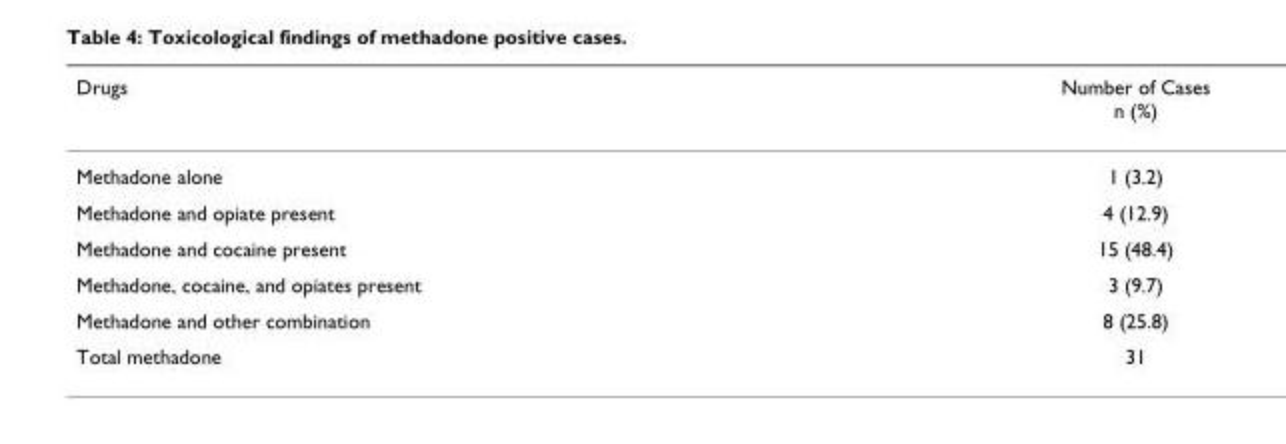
<table><thead><tr><td>Drugs</td><td>Number of Cases n (%)</td></tr></thead><tbody><tr><td>Methadone alone</td><td>1 (3.2)</td></tr><tr><td>Methadone and opiate present</td><td>4 (12.9)</td></tr><tr><td>Methadone and cocaine present</td><td>15 (48.4)</td></tr><tr><td>Methadone, cocaine, and opiates present</td><td>3 (9.7)</td></tr><tr><td>Methadone and other combination</td><td>8 (25.8)</td></tr><tr><td>Total methadone</td><td>31</td></tr></tbody></table>